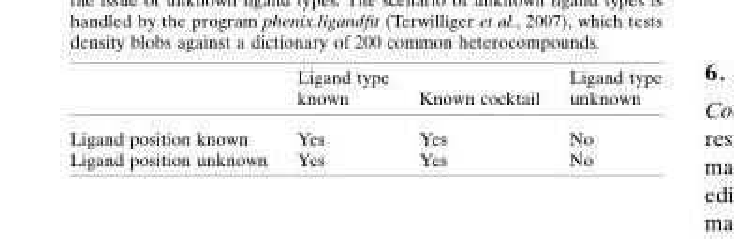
<table><thead><tr><td></td><td>Ligand type known</td><td>Known cocktail</td><td>Ligand type unknown</td></tr></thead><tbody><tr><td>Ligand position known</td><td>Yes</td><td>Yes</td><td>No</td></tr><tr><td>Ligand position unknown</td><td>Yes</td><td>Yes</td><td>No</td></tr></tbody></table>